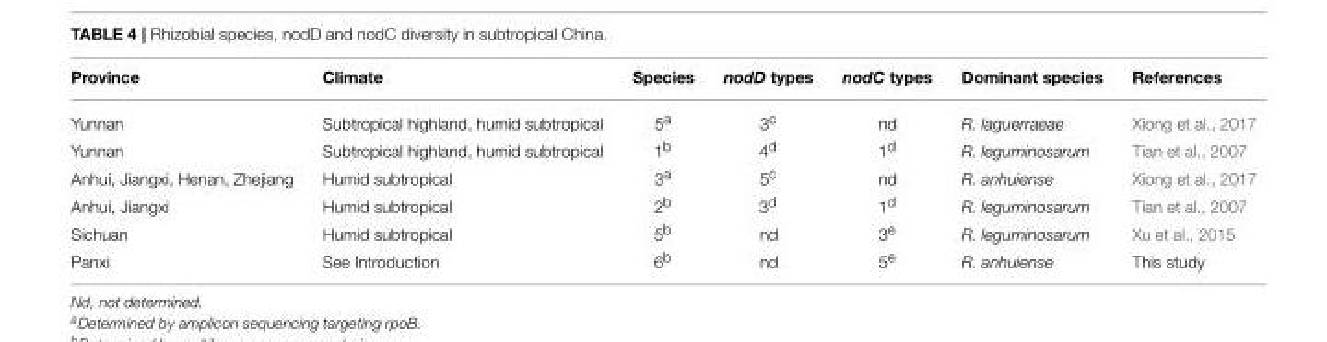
<table><thead><tr><td>Province</td><td>Climate</td><td>Species</td><td>nodD types</td><td>nodC types</td><td>Dominant species</td><td>References</td></tr></thead><tbody><tr><td>Yunnan</td><td>Subtropical highland, humid subtropical</td><td>5<sup>a</sup></td><td>3<sup>c</sup></td><td>nd</td><td>R. laguerraeae</td><td>Xiong et al., 2017</td></tr><tr><td>Yunnan</td><td>Subtropical highland, humid subtropical</td><td>1<sup>b</sup></td><td>4<sup>d</sup></td><td>1<sup>d</sup></td><td>R. leguminosarum</td><td>Tian et al., 2007</td></tr><tr><td>Anhui, Jiangxi, Henan, Zhejiang</td><td>Humid subtropical</td><td>3<sup>a</sup></td><td>5<sup>c</sup></td><td>nd</td><td>R. anhuiense</td><td>Xiong et al., 2017</td></tr><tr><td>Anhui, Jiangxi</td><td>Humid subtropical</td><td>2<sup>b</sup></td><td>3<sup>d</sup></td><td>1<sup>d</sup></td><td>R. leguminosarum</td><td>Tian et al., 2007</td></tr><tr><td>Sichuan</td><td>Humid subtropical</td><td>5<sup>b</sup></td><td>nd</td><td>3<sup>e</sup></td><td>R. leguminosarum</td><td>Xu et al., 2015</td></tr><tr><td>Panxi</td><td>See Introduction</td><td>6<sup>b</sup></td><td>nd</td><td>5<sup>e</sup></td><td>R. anhuiense</td><td>This study</td></tr></tbody></table>